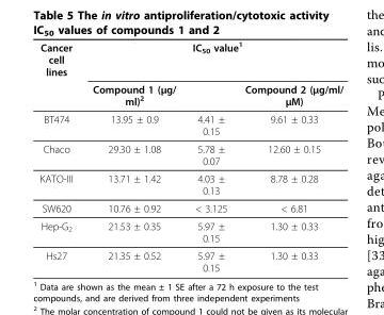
<table><thead><tr><td rowspan="2">Cancer cell lines</td><td colspan="3">IC<sub>50</sub> value<sup>1</sup></td></tr><tr><td>Compound 1 (μg/ ml)<sup>2</sup></td><td></td><td>Compound 2 (μg/ml/ μM)</td></tr></thead><tbody><tr><td>BT474</td><td>13.95 ± 0.9</td><td>4.41 ± 0.15</td><td>9.61 ± 0.33</td></tr><tr><td>Chaco</td><td>29.30 ± 1.08</td><td>5.78 ± 0.07</td><td>12.60 ± 0.15</td></tr><tr><td>KATO-III</td><td>13.71 ± 1.42</td><td>4.03 ± 0.13</td><td>8.78 ± 0.28</td></tr><tr><td>SW620</td><td>10.76 ± 0.92</td><td>&lt; 3.125</td><td>&lt; 6.81</td></tr><tr><td>Hep-G<sub>2</sub></td><td>21.53 ± 0.35</td><td>5.97 ± 0.15</td><td>1.30 ± 0.33</td></tr><tr><td>Hs27</td><td>21.35 ± 0.52</td><td>5.97 ± 0.15</td><td>1.30 ± 0.33</td></tr></tbody></table>